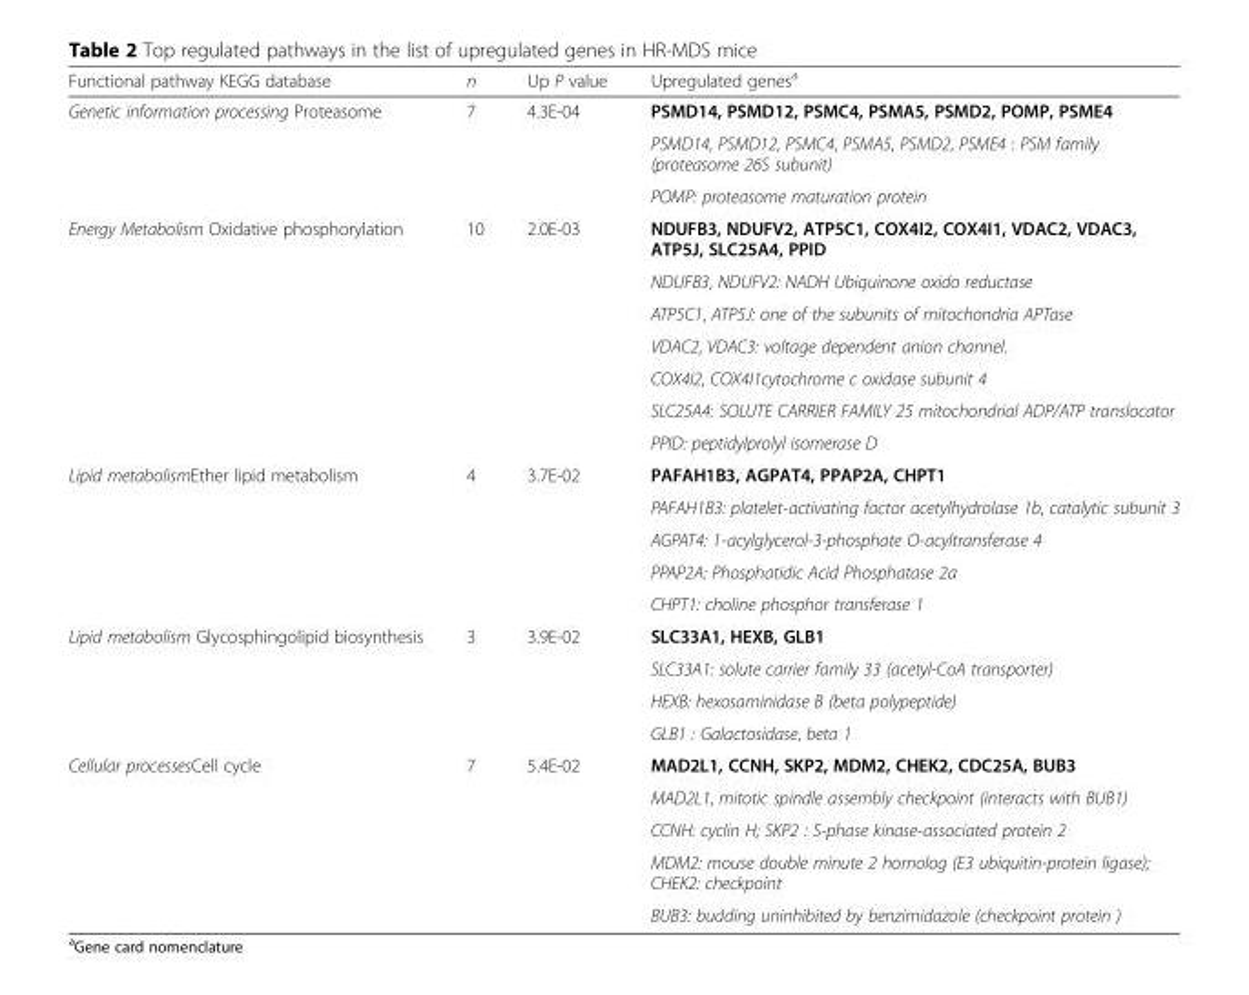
<table><thead><tr><td>Functional pathway KEGG database</td><td>n</td><td>Up P value</td><td>Upregulated genes<sup>a</sup></td></tr></thead><tbody><tr><td rowspan="3">Genetic information processing Proteasome</td><td rowspan="3">7</td><td rowspan="3">4.3E-04</td><td>PSMD14, PSMD12, PSMC4, PSMA5, PSMD2, POMP, PSME4</td></tr><tr><td>PSMD14, PSMD12, PSMC4, PSMA5, PSMD2, PSME4 : PSM family (proteasome 26S subunit)</td></tr><tr><td>POMP: proteasome maturation protein</td></tr><tr><td rowspan="7">Energy Metabolism Oxidative phosphorylation</td><td rowspan="7">10</td><td rowspan="7">2.0E-03</td><td>NDUFB3, NDUFV2, ATP5C1, COX4I2, COX4I1, VDAC2, VDAC3, ATP5J, SLC25A4, PPID</td></tr><tr><td>NDUFB3, NDUFV2: NADH Ubiquinone oxido reductase</td></tr><tr><td>ATP5C1, ATP5J: one of the subunits of mitochondria APTase</td></tr><tr><td>VDAC2, VDAC3: voltage dependent anion channel.</td></tr><tr><td>COX4I2, COX4I1cytochrome c oxidase subunit 4</td></tr><tr><td>SLC25A4: SOLUTE CARRIER FAMILY 25 mitochondrial ADP/ATP translocator</td></tr><tr><td>PPID: peptidylprolyl isomerase D</td></tr><tr><td rowspan="5">Lipid metabolismEther lipid metabolism</td><td rowspan="5">4</td><td rowspan="5">3.7E-02</td><td>PAFAH1B3, AGPAT4, PPAP2A, CHPT1</td></tr><tr><td>PAFAH1B3: platelet-activating factor acetylhydrolase 1b, catalytic subunit 3</td></tr><tr><td>AGPAT4: 1-acylglycerol-3-phosphate O-acyltransferase 4</td></tr><tr><td>PPAP2A: Phosphatidic Acid Phosphatase 2a</td></tr><tr><td>CHPT1: choline phosphor transferase 1</td></tr><tr><td rowspan="4">Lipid metabolism Glycosphingolipid biosynthesis</td><td rowspan="4">3</td><td rowspan="4">3.9E-02</td><td>SLC33A1, HEXB, GLB1</td></tr><tr><td>SLC33A1: solute carrier family 33 (acetyl-CoA transporter)</td></tr><tr><td>HEXB: hexosaminidase B (beta polypeptide)</td></tr><tr><td>GLB1 : Galactosidase, beta 1</td></tr><tr><td rowspan="5">Cellular processesCell cycle</td><td rowspan="5">7</td><td rowspan="5">5.4E-02</td><td>MAD2L1, CCNH, SKP2, MDM2, CHEK2, CDC25A, BUB3</td></tr><tr><td>MAD2L1, mitotic spindle assembly checkpoint (interacts with BUB1)</td></tr><tr><td>CCNH: cyclin H; SKP2 : S-phase kinase-associated protein 2</td></tr><tr><td>MDM2: mouse double minute 2 homolog (E3 ubiquitin-protein ligase); CHEK2: checkpoint</td></tr><tr><td>BUB3: budding uninhibited by benzimidazole (checkpoint protein )</td></tr></tbody></table>